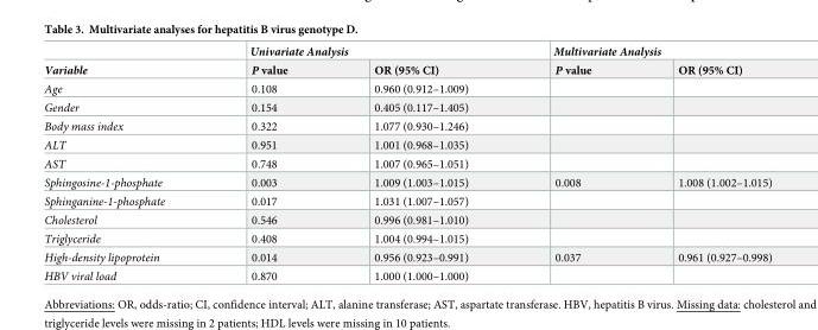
<table><thead><tr><td rowspan="2">Variable</td><td colspan="2">Univariate Analysis</td><td colspan="2">Multivariate Analysis</td></tr><tr><td>P value</td><td>OR (95% CI)</td><td>P value</td><td>OR (95% CI)</td></tr></thead><tbody><tr><td>Age</td><td>0.108</td><td>0.960 (0.912–1.009)</td><td></td><td></td></tr><tr><td>Gender</td><td>0.154</td><td>0.405 (0.117–1.405)</td><td></td><td></td></tr><tr><td>Body mass index</td><td>0.322</td><td>1.077 (0.930–1.246)</td><td></td><td></td></tr><tr><td>ALT</td><td>0.951</td><td>1.001 (0.968–1.035)</td><td></td><td></td></tr><tr><td>AST</td><td>0.748</td><td>1.007 (0.965–1.051)</td><td></td><td></td></tr><tr><td>Sphingosine-1-phosphate</td><td>0.003</td><td>1.009 (1.003–1.015)</td><td>0.008</td><td>1.008 (1.002–1.015)</td></tr><tr><td>Sphinganine-1-phosphate</td><td>0.017</td><td>1.031 (1.007–1.057)</td><td></td><td></td></tr><tr><td>Cholesterol</td><td>0.546</td><td>0.996 (0.981–1.010)</td><td></td><td></td></tr><tr><td>Triglyceride</td><td>0.408</td><td>1.004 (0.994–1.015)</td><td></td><td></td></tr><tr><td>High-density lipoprotein</td><td>0.014</td><td>0.956 (0.923–0.991)</td><td>0.037</td><td>0.961 (0.927–0.998)</td></tr><tr><td>HBV viral load</td><td>0.870</td><td>1.000 (1.000–1.000)</td><td></td><td></td></tr></tbody></table>